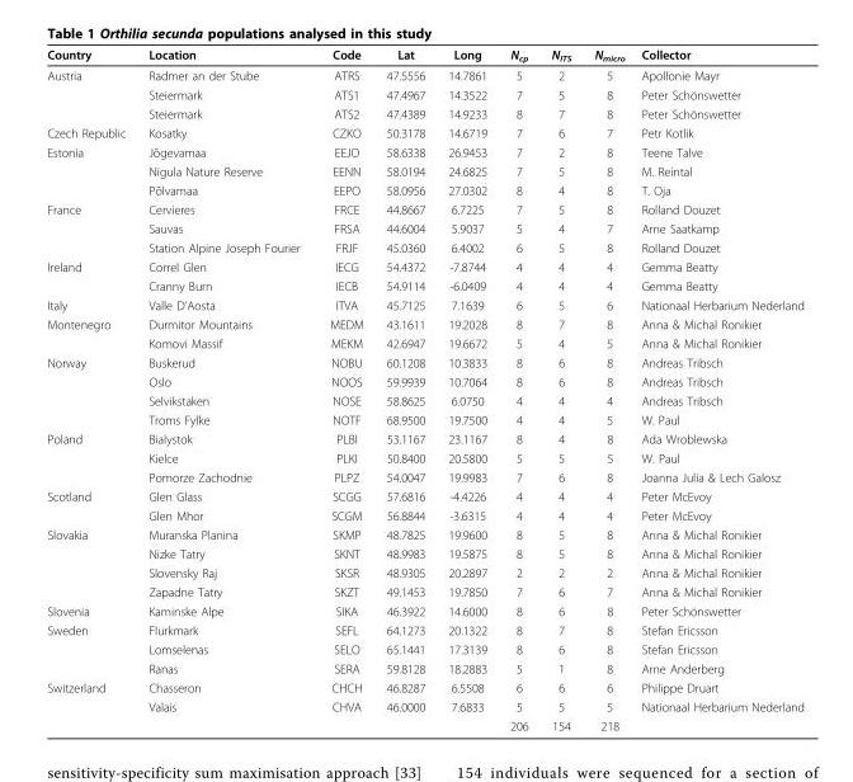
<table><thead><tr><td>Country</td><td>Location</td><td>Code</td><td>Lat</td><td>Long</td><td>N<sub>cp</sub></td><td>N<sub>ITS</sub></td><td>N<sub>micro</sub></td><td>Collector</td></tr></thead><tbody><tr><td rowspan="3">Austria</td><td>Radmer an der Stube</td><td>ATRS</td><td>47.5556</td><td>14.7861</td><td>5</td><td>2</td><td>5</td><td>Apollonie Mayr</td></tr><tr><td>Steiermark</td><td>ATS1</td><td>47.4967</td><td>14.3522</td><td>7</td><td>5</td><td>8</td><td>Peter Schönswetter</td></tr><tr><td>Steiermark</td><td>ATS2</td><td>47.4389</td><td>14.9233</td><td>8</td><td>7</td><td>8</td><td>Peter Schönswetter</td></tr><tr><td>Czech Republic</td><td>Kosatky</td><td>CZKO</td><td>50.3178</td><td>14.6719</td><td>7</td><td>6</td><td>7</td><td>Petr Kotlik</td></tr><tr><td rowspan="3">Estonia</td><td>Jõgevamaa</td><td>EEJO</td><td>58.6338</td><td>26.9453</td><td>7</td><td>2</td><td>8</td><td>Teene Talve</td></tr><tr><td>Nigula Nature Reserve</td><td>EENN</td><td>58.0194</td><td>24.6825</td><td>7</td><td>5</td><td>8</td><td>M. Reintal</td></tr><tr><td>Põlvamaa</td><td>EEPO</td><td>58.0956</td><td>27.0302</td><td>8</td><td>4</td><td>8</td><td>T. Oja</td></tr><tr><td rowspan="3">France</td><td>Cervieres</td><td>FRCE</td><td>44.8667</td><td>6.7225</td><td>7</td><td>5</td><td>8</td><td>Rolland Douzet</td></tr><tr><td>Sauvas</td><td>FRSA</td><td>44.6004</td><td>5.9037</td><td>5</td><td>4</td><td>7</td><td>Arne Saatkamp</td></tr><tr><td>Station Alpine Joseph Fourier</td><td>FRJF</td><td>45.0360</td><td>6.4002</td><td>6</td><td>5</td><td>8</td><td>Rolland Douzet</td></tr><tr><td rowspan="2">Ireland</td><td>Correl Glen</td><td>IECG</td><td>54.4372</td><td>-7.8744</td><td>4</td><td>4</td><td>4</td><td>Gemma Beatty</td></tr><tr><td>Cranny Burn</td><td>IECB</td><td>54.9114</td><td>-6.0409</td><td>4</td><td>4</td><td>4</td><td>Gemma Beatty</td></tr><tr><td>Italy</td><td>Valle D’Aosta</td><td>ITVA</td><td>45.7125</td><td>7.1639</td><td>6</td><td>5</td><td>6</td><td>Nationaal Herbarium Nederland</td></tr><tr><td rowspan="2">Montenegro</td><td>Durmitor Mountains</td><td>MEDM</td><td>43.1611</td><td>19.2028</td><td>8</td><td>7</td><td>8</td><td>Anna &amp; Michal Ronikier</td></tr><tr><td>Komovi Massif</td><td>MEKM</td><td>42.6947</td><td>19.6672</td><td>5</td><td>4</td><td>5</td><td>Anna &amp; Michal Ronikier</td></tr><tr><td rowspan="4">Norway</td><td>Buskerud</td><td>NOBU</td><td>60.1208</td><td>10.3833</td><td>8</td><td>6</td><td>8</td><td>Andreas Tribsch</td></tr><tr><td>Oslo</td><td>NOOS</td><td>59.9939</td><td>10.7064</td><td>8</td><td>6</td><td>8</td><td>Andreas Tribsch</td></tr><tr><td>Selvikstaken</td><td>NOSE</td><td>58.8625</td><td>6.0750</td><td>4</td><td>4</td><td>4</td><td>Andreas Tribsch</td></tr><tr><td>Troms Fylke</td><td>NOTF</td><td>68.9500</td><td>19.7500</td><td>4</td><td>4</td><td>5</td><td>W. Paul</td></tr><tr><td rowspan="3">Poland</td><td>Bialystok</td><td>PLBI</td><td>53.1167</td><td>23.1167</td><td>8</td><td>4</td><td>8</td><td>Ada Wroblewska</td></tr><tr><td>Kielce</td><td>PLKI</td><td>50.8400</td><td>20.5800</td><td>5</td><td>5</td><td>5</td><td>W. Paul</td></tr><tr><td>Pomorze Zachodnie</td><td>PLPZ</td><td>54.0047</td><td>19.9983</td><td>7</td><td>6</td><td>8</td><td>Joanna Julia &amp; Lech Galosz</td></tr><tr><td rowspan="2">Scotland</td><td>Glen Glass</td><td>SCGG</td><td>57.6816</td><td>-4.4226</td><td>4</td><td>4</td><td>4</td><td>Peter McEvoy</td></tr><tr><td>Glen Mhor</td><td>SCGM</td><td>56.8844</td><td>-3.6315</td><td>4</td><td>4</td><td>4</td><td>Peter McEvoy</td></tr><tr><td rowspan="4">Slovakia</td><td>Muranska Planina</td><td>SKMP</td><td>48.7825</td><td>19.9600</td><td>8</td><td>5</td><td>8</td><td>Anna &amp; Michal Ronikier</td></tr><tr><td>Nizke Tatry</td><td>SKNT</td><td>48.9983</td><td>19.5875</td><td>8</td><td>5</td><td>8</td><td>Anna &amp; Michal Ronikier</td></tr><tr><td>Slovensky Raj</td><td>SKSR</td><td>48.9305</td><td>20.2897</td><td>2</td><td>2</td><td>2</td><td>Anna &amp; Michal Ronikier</td></tr><tr><td>Zapadne Tatry</td><td>SKZT</td><td>49.1453</td><td>19.7850</td><td>7</td><td>6</td><td>7</td><td>Anna &amp; Michal Ronikier</td></tr><tr><td>Slovenia</td><td>Kaminske Alpe</td><td>SIKA</td><td>46.3922</td><td>14.6000</td><td>8</td><td>6</td><td>8</td><td>Peter Schönswetter</td></tr><tr><td rowspan="3">Sweden</td><td>Flurkmark</td><td>SEFL</td><td>64.1273</td><td>20.1322</td><td>8</td><td>7</td><td>8</td><td>Stefan Ericsson</td></tr><tr><td>Lomselenas</td><td>SELO</td><td>65.1441</td><td>17.3139</td><td>8</td><td>6</td><td>8</td><td>Stefan Ericsson</td></tr><tr><td>Ranas</td><td>SERA</td><td>59.8128</td><td>18.2883</td><td>5</td><td>1</td><td>8</td><td>Arne Anderberg</td></tr><tr><td rowspan="3">Switzerland</td><td>Chasseron</td><td>CHCH</td><td>46.8287</td><td>6.5508</td><td>6</td><td>6</td><td>6</td><td>Philippe Druart</td></tr><tr><td>Valais</td><td>CHVA</td><td>46.0000</td><td>7.6833</td><td>5</td><td>5</td><td>5</td><td>Nationaal Herbarium Nederland</td></tr><tr><td></td><td></td><td></td><td></td><td>206</td><td>154</td><td>218</td><td></td></tr></tbody></table>